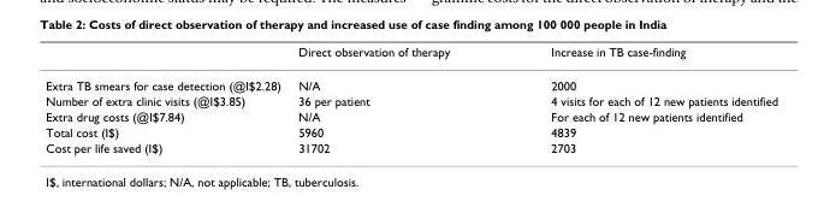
<table><thead><tr><td></td><td>Direct observation of therapy</td><td>Increase in TB case-finding</td></tr></thead><tbody><tr><td>Extra TB smears for case detection (@I$2.28)</td><td>N/A</td><td>2000</td></tr><tr><td>Number of extra clinic visits (@I$3.85)</td><td>36 per patient</td><td>4 visits for each of 12 new patients identified</td></tr><tr><td>Extra drug costs (@I$7.84)</td><td>N/A</td><td>For each of 12 new patients identified</td></tr><tr><td>Total cost (I$)</td><td>5960</td><td>4839</td></tr><tr><td>Cost per life saved (I$)</td><td>31702</td><td>2703</td></tr></tbody></table>